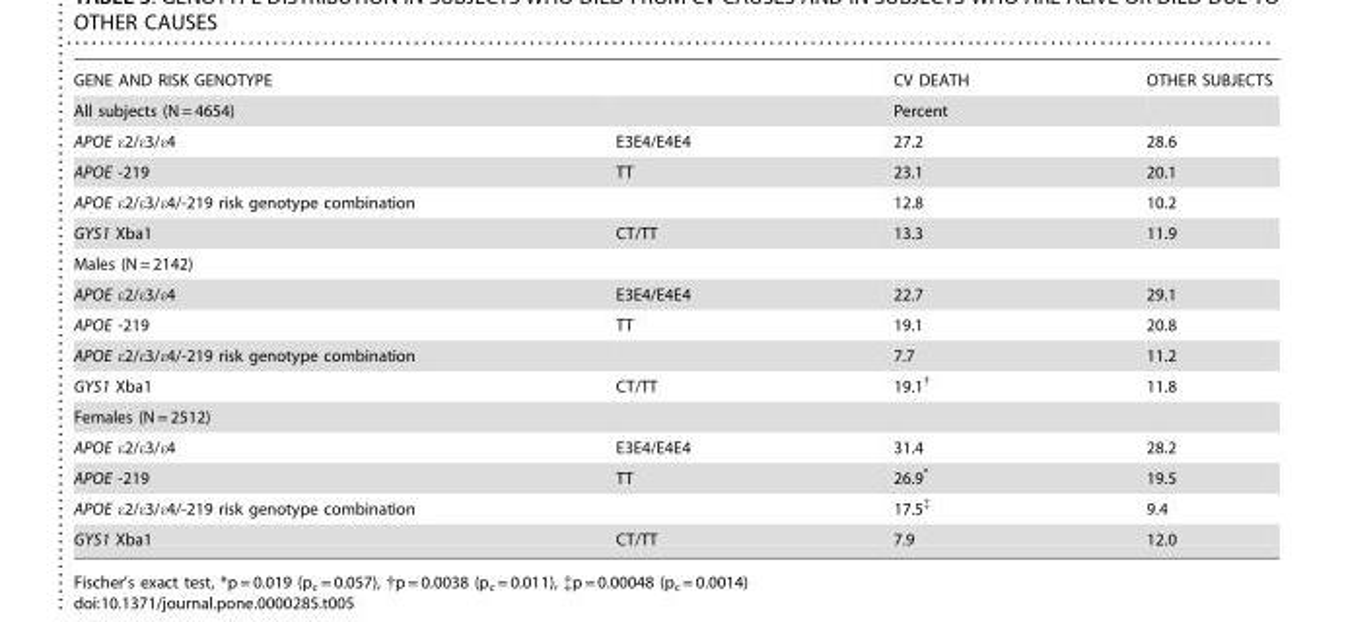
<table><tbody><tr><td>GENE AND RISK GENOTYPE</td><td></td><td>CV DEATH</td><td>OTHER SUBJECTS</td></tr><tr><td>All subjects (N = 4654)</td><td></td><td>Percent</td><td></td></tr><tr><td>APOE ε2/ε3/ε4</td><td>E3E4/E4E4</td><td>27.2</td><td>28.6</td></tr><tr><td>APOE -219</td><td>TT</td><td>23.1</td><td>20.1</td></tr><tr><td>APOE ε2/ε3/ε4/-219 risk genotype combination</td><td></td><td>12.8</td><td>10.2</td></tr><tr><td>GYS1 Xba1</td><td>CT/TT</td><td>13.3</td><td>11.9</td></tr><tr><td colspan="4">Males (N = 2142)</td></tr><tr><td>APOE ε2/ε3/ε4</td><td>E3E4/E4E4</td><td>22.7</td><td>29.1</td></tr><tr><td>APOE -219</td><td>TT</td><td>19.1</td><td>20.8</td></tr><tr><td>APOE ε2/ε3/ε4/-219 risk genotype combination</td><td></td><td>7.7</td><td>11.2</td></tr><tr><td>GYS1 Xba1</td><td>CT/TT</td><td>19.1<sup>†</sup></td><td>11.8</td></tr><tr><td colspan="4">Females (N = 2512)</td></tr><tr><td>APOE ε2/ε3/ε4</td><td>E3E4/E4E4</td><td>31.4</td><td>28.2</td></tr><tr><td>APOE -219</td><td>TT</td><td>26.9*</td><td>19.5</td></tr><tr><td>APOE ε2/ε3/ε4/-219 risk genotype combination</td><td></td><td>17.5<sup>‡</sup></td><td>9.4</td></tr><tr><td>GYS1 Xba1</td><td>CT/TT</td><td>7.9</td><td>12.0</td></tr></tbody></table>